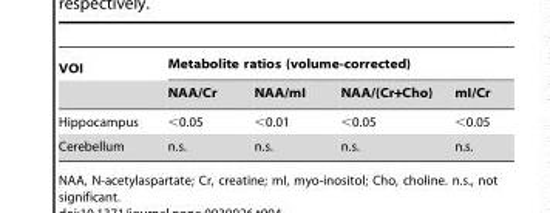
<table><thead><tr><td rowspan="2">VOI</td><td colspan="4">Metabolite ratios (volume-corrected)</td></tr><tr><td>NAA/Cr</td><td>NAA/mI</td><td>NAA/(Cr+Cho)</td><td>mI/Cr</td></tr></thead><tbody><tr><td>Hippocampus</td><td>&lt;0.05</td><td>&lt;0.01</td><td>&lt;0.05</td><td>&lt;0.05</td></tr><tr><td>Cerebellum</td><td>n.s.</td><td>n.s.</td><td>n.s.</td><td>n.s.</td></tr></tbody></table>